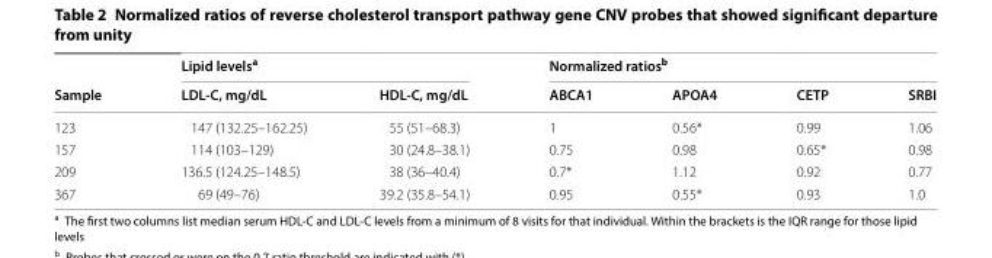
<table><thead><tr><td rowspan="2">Sample</td><td colspan="2">Lipid levels<sup>a</sup></td><td colspan="4">Normalized ratios<sup>b</sup></td></tr><tr><td>LDL-C, mg/dL</td><td>HDL-C, mg/dL</td><td>ABCA1</td><td>APOA4</td><td>CETP</td><td>SRBI</td></tr></thead><tbody><tr><td>123</td><td>147 (132.25–162.25)</td><td>55 (51–68.3)</td><td>1</td><td>0.56*</td><td>0.99</td><td>1.06</td></tr><tr><td>157</td><td>114 (103–129)</td><td>30 (24.8–38.1)</td><td>0.75</td><td>0.98</td><td>0.65*</td><td>0.98</td></tr><tr><td>209</td><td>136.5 (124.25–148.5)</td><td>38 (36–40.4)</td><td>0.7*</td><td>1.12</td><td>0.92</td><td>0.77</td></tr><tr><td>367</td><td>69 (49–76)</td><td>39.2 (35.8–54.1)</td><td>0.95</td><td>0.55*</td><td>0.93</td><td>1.0</td></tr></tbody></table>